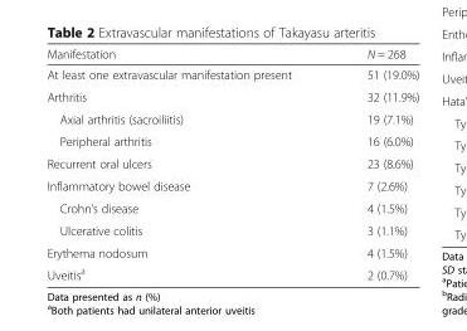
<table><thead><tr><td>Manifestation</td><td>N = 268</td></tr></thead><tbody><tr><td>At least one extravascular manifestation present</td><td>51 (19.0%)</td></tr><tr><td>Arthritis</td><td>32 (11.9%)</td></tr><tr><td>Axial arthritis (sacroiliitis)</td><td>19 (7.1%)</td></tr><tr><td>Peripheral arthritis</td><td>16 (6.0%)</td></tr><tr><td>Recurrent oral ulcers</td><td>23 (8.6%)</td></tr><tr><td>Inflammatory bowel disease</td><td>7 (2.6%)</td></tr><tr><td>Crohn’s disease</td><td>4 (1.5%)</td></tr><tr><td>Ulcerative colitis</td><td>3 (1.1%)</td></tr><tr><td>Erythema nodosum</td><td>4 (1.5%)</td></tr><tr><td>Uveitis<sup>a</sup></td><td>2 (0.7%)</td></tr></tbody></table>